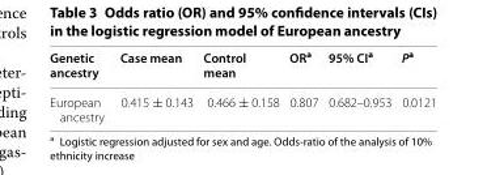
<table><thead><tr><td>Genetic ancestry</td><td>Case mean</td><td>Control mean</td><td>OR<sup>a</sup></td><td>95% CI<sup>a</sup></td><td>P<sup>a</sup></td></tr></thead><tbody><tr><td>European ancestry</td><td>0.415 ± 0.143</td><td>0.466 ± 0.158</td><td>0.807</td><td>0.682–0.953</td><td>0.0121</td></tr></tbody></table>